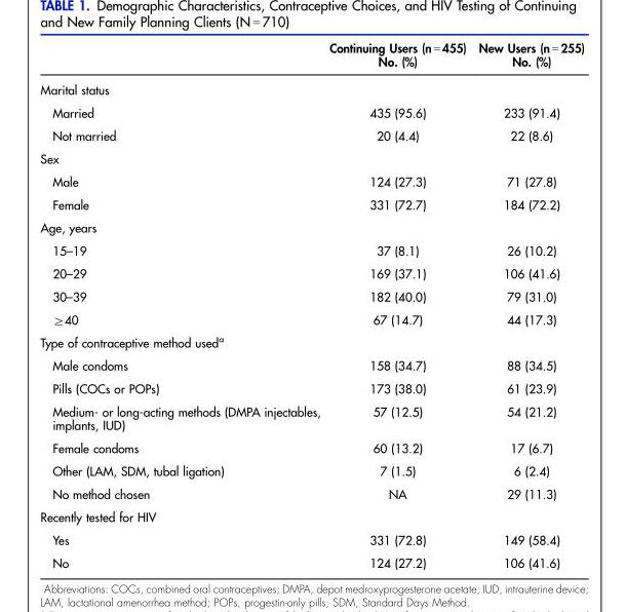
<table><thead><tr><td></td><td>Continuing Users (n = 455) No. (%)</td><td>New Users (n = 255) No. (%)</td></tr></thead><tbody><tr><td colspan="3">Marital status</td></tr><tr><td>Married</td><td>435 (95.6)</td><td>233 (91.4)</td></tr><tr><td>Not married</td><td>20 (4.4)</td><td>22 (8.6)</td></tr><tr><td colspan="3">Sex</td></tr><tr><td>Male</td><td>124 (27.3)</td><td>71 (27.8)</td></tr><tr><td>Female</td><td>331 (72.7)</td><td>184 (72.2)</td></tr><tr><td colspan="3">Age, years</td></tr><tr><td>15–19</td><td>37 (8.1)</td><td>26 (10.2)</td></tr><tr><td>20–29</td><td>169 (37.1)</td><td>106 (41.6)</td></tr><tr><td>30–39</td><td>182 (40.0)</td><td>79 (31.0)</td></tr><tr><td>≥40</td><td>67 (14.7)</td><td>44 (17.3)</td></tr><tr><td colspan="3">Type of contraceptive method used<sup>a</sup></td></tr><tr><td>Male condoms</td><td>158 (34.7)</td><td>88 (34.5)</td></tr><tr><td>Pills (COCs or POPs)</td><td>173 (38.0)</td><td>61 (23.9)</td></tr><tr><td>Medium- or long-acting methods (DMPA injectables, implants, IUD)</td><td>57 (12.5)</td><td>54 (21.2)</td></tr><tr><td>Female condoms</td><td>60 (13.2)</td><td>17 (6.7)</td></tr><tr><td>Other (LAM, SDM, tubal ligation)</td><td>7 (1.5)</td><td>6 (2.4)</td></tr><tr><td>No method chosen</td><td>NA</td><td>29 (11.3)</td></tr><tr><td colspan="3">Recently tested for HIV</td></tr><tr><td>Yes</td><td>331 (72.8)</td><td>149 (58.4)</td></tr><tr><td>No</td><td>124 (27.2)</td><td>106 (41.6)</td></tr></tbody></table>